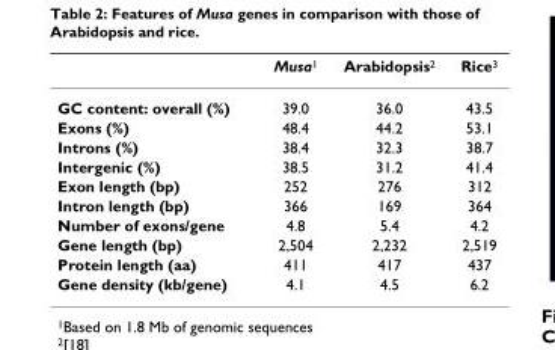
<table><thead><tr><td></td><td>Musa<sup>1</sup></td><td>Arabidopsis<sup>2</sup></td><td>Rice<sup>3</sup></td></tr></thead><tbody><tr><td>GC content: overall (%)</td><td>39.0</td><td>36.0</td><td>43.5</td></tr><tr><td>Exons (%)</td><td>48.4</td><td>44.2</td><td>53.1</td></tr><tr><td>Introns (%)</td><td>38.4</td><td>32.3</td><td>38.7</td></tr><tr><td>Intergenic (%)</td><td>38.5</td><td>31.2</td><td>41.4</td></tr><tr><td>Exon length (bp)</td><td>252</td><td>276</td><td>312</td></tr><tr><td>Intron length (bp)</td><td>366</td><td>169</td><td>364</td></tr><tr><td>Number of exons/gene</td><td>4.8</td><td>5.4</td><td>4.2</td></tr><tr><td>Gene length (bp)</td><td>2,504</td><td>2,232</td><td>2,519</td></tr><tr><td>Protein length (aa)</td><td>411</td><td>417</td><td>437</td></tr><tr><td>Gene density (kb/gene)</td><td>4.1</td><td>4.5</td><td>6.2</td></tr></tbody></table>